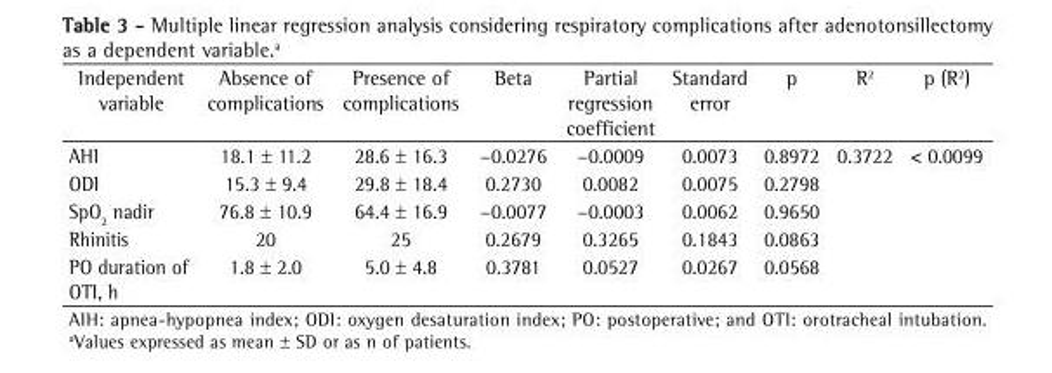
<table><thead><tr><td>Independent variable</td><td>Absence of complications</td><td>Presence of complications</td><td>Beta</td><td>Partial regression coefficient</td><td>Standard error</td><td>p</td><td>R<sup>2</sup></td><td>p (R<sup>2</sup>)</td></tr></thead><tbody><tr><td>AHI</td><td>18.1 ± 11.2</td><td>28.6 ± 16.3</td><td>−0.0276</td><td>−0.0009</td><td>0.0073</td><td>0.8972</td><td rowspan="5">0.3722</td><td rowspan="5">&lt; 0.0099</td></tr><tr><td>ODI</td><td>15.3 ± 9.4</td><td>29.8 ± 18.4</td><td>0.2730</td><td>0.0082</td><td>0.0075</td><td>0.2798</td></tr><tr><td>SpO<sub>2</sub> nadir</td><td>76.8 ± 10.9</td><td>64.4 ± 16.9</td><td>−0.0077</td><td>−0.0003</td><td>0.0062</td><td>0.9650</td></tr><tr><td>Rhinitis</td><td>20</td><td>25</td><td>0.2679</td><td>0.3265</td><td>0.1843</td><td>0.0863</td></tr><tr><td>PO duration of OTI, h</td><td>1.8 ± 2.0</td><td>5.0 ± 4.8</td><td>0.3781</td><td>0.0527</td><td>0.0267</td><td>0.0568</td></tr></tbody></table>